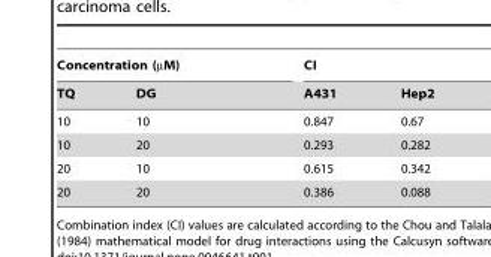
<table><thead><tr><td colspan="2">Concentration (µM)</td><td colspan="2">CI</td></tr><tr><td>TQ</td><td>DG</td><td>A431</td><td>Hep2</td></tr></thead><tbody><tr><td>10</td><td>10</td><td>0.847</td><td>0.67</td></tr><tr><td>10</td><td>20</td><td>0.293</td><td>0.282</td></tr><tr><td>20</td><td>10</td><td>0.615</td><td>0.342</td></tr><tr><td>20</td><td>20</td><td>0.386</td><td>0.088</td></tr></tbody></table>